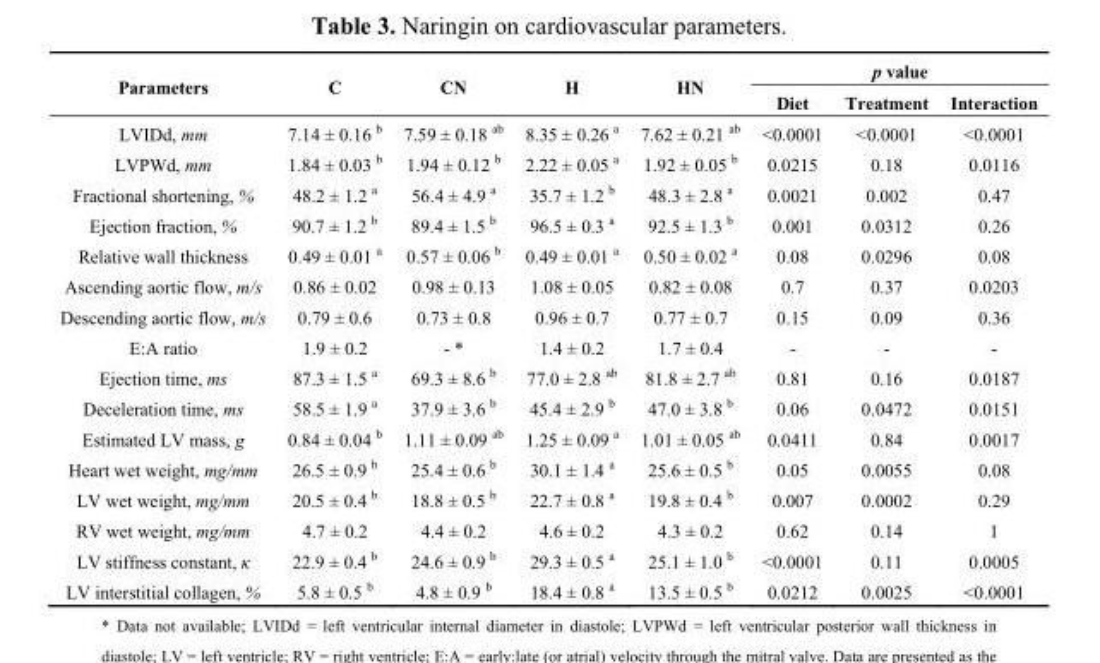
<table><thead><tr><td rowspan="2">Parameters</td><td rowspan="2">C</td><td rowspan="2">CN</td><td rowspan="2">H</td><td rowspan="2">HN</td><td colspan="3">p value</td></tr><tr><td>Diet</td><td>Treatment</td><td>Interaction</td></tr></thead><tbody><tr><td>LVIDd, mm</td><td>7.14 ± 0.16 <sup>b</sup></td><td>7.59 ± 0.18 <sup>ab</sup></td><td>8.35 ± 0.26 <sup>a</sup></td><td>7.62 ± 0.21 <sup>ab</sup></td><td>&lt;0.0001</td><td>&lt;0.0001</td><td>&lt;0.0001</td></tr><tr><td>LVPWd, mm</td><td>1.84 ± 0.03 <sup>b</sup></td><td>1.94 ± 0.12 <sup>b</sup></td><td>2.22 ± 0.05 <sup>a</sup></td><td>1.92 ± 0.05 <sup>b</sup></td><td>0.0215</td><td>0.18</td><td>0.0116</td></tr><tr><td>Fractional shortening, %</td><td>48.2 ± 1.2 <sup>a</sup></td><td>56.4 ± 4.9 <sup>a</sup></td><td>35.7 ± 1.2 <sup>b</sup></td><td>48.3 ± 2.8 <sup>a</sup></td><td>0.0021</td><td>0.002</td><td>0.47</td></tr><tr><td>Ejection fraction, %</td><td>90.7 ± 1.2 <sup>b</sup></td><td>89.4 ± 1.5 <sup>b</sup></td><td>96.5 ± 0.3 <sup>a</sup></td><td>92.5 ± 1.3 <sup>b</sup></td><td>0.001</td><td>0.0312</td><td>0.26</td></tr><tr><td>Relative wall thickness</td><td>0.49 ± 0.01 <sup>a</sup></td><td>0.57 ± 0.06 <sup>b</sup></td><td>0.49 ± 0.01 <sup>a</sup></td><td>0.50 ± 0.02 <sup>a</sup></td><td>0.08</td><td>0.0296</td><td>0.08</td></tr><tr><td>Ascending aortic flow, m/s</td><td>0.86 ± 0.02</td><td>0.98 ± 0.13</td><td>1.08 ± 0.05</td><td>0.82 ± 0.08</td><td>0.7</td><td>0.37</td><td>0.0203</td></tr><tr><td>Descending aortic flow, m/s</td><td>0.79 ± 0.6</td><td>0.73 ± 0.8</td><td>0.96 ± 0.7</td><td>0.77 ± 0.7</td><td>0.15</td><td>0.09</td><td>0.36</td></tr><tr><td>E:A ratio</td><td>1.9 ± 0.2</td><td>- *</td><td>1.4 ± 0.2</td><td>1.7 ± 0.4</td><td>-</td><td>-</td><td>-</td></tr><tr><td>Ejection time, ms</td><td>87.3 ± 1.5 <sup>a</sup></td><td>69.3 ± 8.6 <sup>b</sup></td><td>77.0 ± 2.8 <sup>ab</sup></td><td>81.8 ± 2.7 <sup>ab</sup></td><td>0.81</td><td>0.16</td><td>0.0187</td></tr><tr><td>Deceleration time, ms</td><td>58.5 ± 1.9 <sup>a</sup></td><td>37.9 ± 3.6 <sup>b</sup></td><td>45.4 ± 2.9 <sup>b</sup></td><td>47.0 ± 3.8 <sup>b</sup></td><td>0.06</td><td>0.0472</td><td>0.0151</td></tr><tr><td>Estimated LV mass, g</td><td>0.84 ± 0.04 <sup>b</sup></td><td>1.11 ± 0.09 <sup>ab</sup></td><td>1.25 ± 0.09 <sup>a</sup></td><td>1.01 ± 0.05 <sup>ab</sup></td><td>0.0411</td><td>0.84</td><td>0.0017</td></tr><tr><td>Heart wet weight, mg/mm</td><td>26.5 ± 0.9 <sup>b</sup></td><td>25.4 ± 0.6 <sup>b</sup></td><td>30.1 ± 1.4 <sup>a</sup></td><td>25.6 ± 0.5 <sup>b</sup></td><td>0.05</td><td>0.0055</td><td>0.08</td></tr><tr><td>LV wet weight, mg/mm</td><td>20.5 ± 0.4 <sup>b</sup></td><td>18.8 ± 0.5 <sup>b</sup></td><td>22.7 ± 0.8 <sup>a</sup></td><td>19.8 ± 0.4 <sup>b</sup></td><td>0.007</td><td>0.0002</td><td>0.29</td></tr><tr><td>RV wet weight, mg/mm</td><td>4.7 ± 0.2</td><td>4.4 ± 0.2</td><td>4.6 ± 0.2</td><td>4.3 ± 0.2</td><td>0.62</td><td>0.14</td><td>1</td></tr><tr><td>LV stiffness constant, κ</td><td>22.9 ± 0.4 <sup>b</sup></td><td>24.6 ± 0.9 <sup>b</sup></td><td>29.3 ± 0.5 <sup>a</sup></td><td>25.1 ± 1.0 <sup>b</sup></td><td>&lt;0.0001</td><td>0.11</td><td>0.0005</td></tr><tr><td>LV interstitial collagen, %</td><td>5.8 ± 0.5 <sup>b</sup></td><td>4.8 ± 0.9 <sup>b</sup></td><td>18.4 ± 0.8 <sup>a</sup></td><td>13.5 ± 0.5 <sup>b</sup></td><td>0.0212</td><td>0.0025</td><td>&lt;0.0001</td></tr></tbody></table>